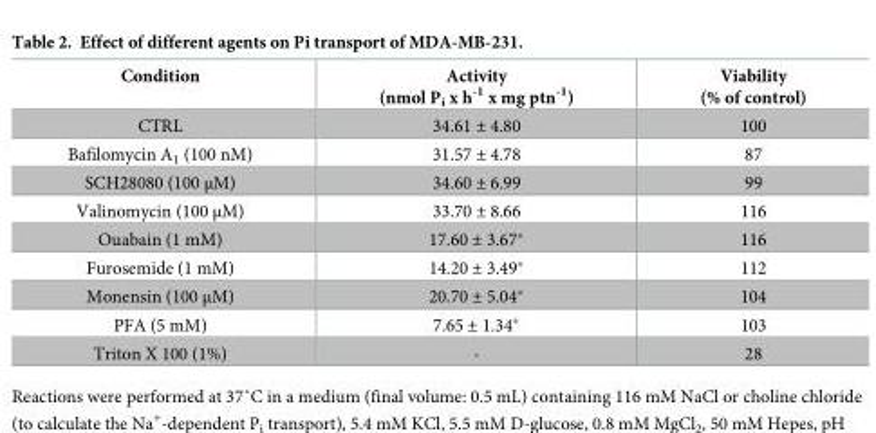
<table><thead><tr><td>Condition</td><td>Activity (nmol P<sub>i</sub> x h<sup>-1</sup> x mg ptn<sup>-1</sup>)</td><td>Viability (% of control)</td></tr></thead><tbody><tr><td>CTRL</td><td>34.61 ± 4.80</td><td>100</td></tr><tr><td>Bafilomycin A<sub>1</sub> (100 nM)</td><td>31.57 ± 4.78</td><td>87</td></tr><tr><td>SCH28080 (100 μM)</td><td>34.60 ± 6.99</td><td>99</td></tr><tr><td>Valinomycin (100 μM)</td><td>33.70 ± 8.66</td><td>116</td></tr><tr><td>Ouabain (1 mM)</td><td>17.60 ± 3.67*</td><td>116</td></tr><tr><td>Furosemide (1 mM)</td><td>14.20 ± 3.49*</td><td>112</td></tr><tr><td>Monensin (100 μM)</td><td>20.70 ± 5.04*</td><td>104</td></tr><tr><td>PFA (5 mM)</td><td>7.65 ± 1.34*</td><td>103</td></tr><tr><td>Triton X 100 (1%)</td><td>-</td><td>28</td></tr></tbody></table>